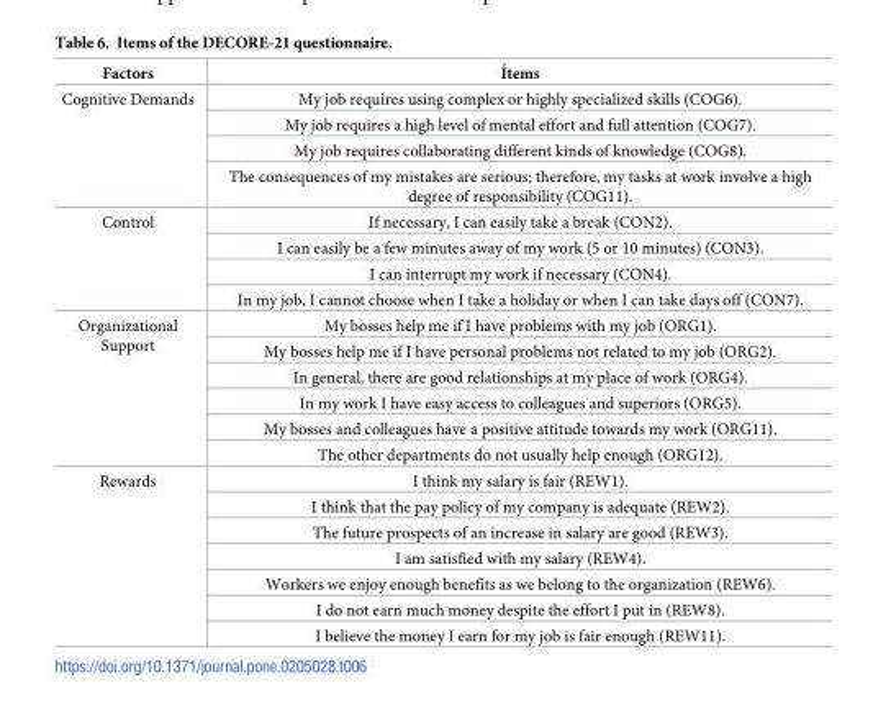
<table><thead><tr><td>Factors</td><td>I´tems</td></tr></thead><tbody><tr><td rowspan="4">Cognitive Demands</td><td>My job requires using complex or highly specialized skills (COG6).</td></tr><tr><td>My job requires a high level of mental effort and full attention (COG7).</td></tr><tr><td>My job requires collaborating different kinds of knowledge (COG8).</td></tr><tr><td>The consequences of my mistakes are serious; therefore, my tasks at work involve a high degree of responsibility (COG11).</td></tr><tr><td rowspan="4">Control</td><td>If necessary, I can easily take a break (CON2).</td></tr><tr><td>I can easily be a few minutes away of my work (5 or 10 minutes) (CON3).</td></tr><tr><td>I can interrupt my work if necessary (CON4).</td></tr><tr><td>In my job, I cannot choose when I take a holiday or when I can take days off (CON7).</td></tr><tr><td rowspan="6">Organizational Support</td><td>My bosses help me if I have problems with my job (ORG1).</td></tr><tr><td>My bosses help me if I have personal problems not related to my job (ORG2).</td></tr><tr><td>In general, there are good relationships at my place of work (ORG4).</td></tr><tr><td>In my work I have easy access to colleagues and superiors (ORG5).</td></tr><tr><td>My bosses and colleagues have a positive attitude towards my work (ORG11).</td></tr><tr><td>The other departments do not usually help enough (ORG12).</td></tr><tr><td rowspan="7">Rewards</td><td>I think my salary is fair (REW1).</td></tr><tr><td>I think that the pay policy of my company is adequate (REW2).</td></tr><tr><td>The future prospects of an increase in salary are good (REW3).</td></tr><tr><td>I am satisfied with my salary (REW4).</td></tr><tr><td>Workers we enjoy enough benefits as we belong to the organization (REW6).</td></tr><tr><td>I do not earn much money despite the effort I put in (REW8).</td></tr><tr><td>I believe the money I earn for my job is fair enough (REW11).</td></tr></tbody></table>